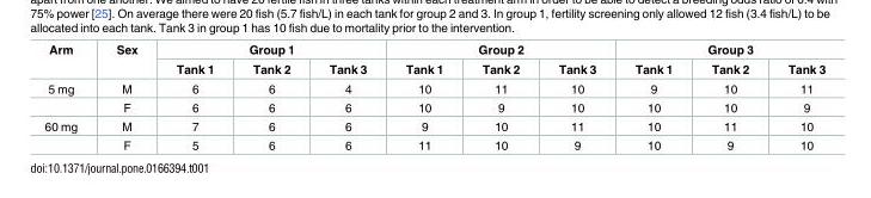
<table><thead><tr><td rowspan="2">Arm</td><td rowspan="2">Sex</td><td colspan="3">Group 1</td><td colspan="3">Group 2</td><td colspan="3">Group 3</td></tr><tr><td>Tank 1</td><td>Tank 2</td><td>Tank 3</td><td>Tank 1</td><td>Tank 2</td><td>Tank 3</td><td>Tank 1</td><td>Tank 2</td><td>Tank 3</td></tr></thead><tbody><tr><td rowspan="2">5 mg</td><td>M</td><td>6</td><td>6</td><td>4</td><td>10</td><td>11</td><td>10</td><td>9</td><td>10</td><td>11</td></tr><tr><td>F</td><td>6</td><td>6</td><td>6</td><td>10</td><td>9</td><td>10</td><td>10</td><td>10</td><td>9</td></tr><tr><td rowspan="2">60 mg</td><td>M</td><td>7</td><td>6</td><td>6</td><td>9</td><td>10</td><td>11</td><td>10</td><td>11</td><td>10</td></tr><tr><td>F</td><td>5</td><td>6</td><td>6</td><td>11</td><td>10</td><td>9</td><td>10</td><td>9</td><td>10</td></tr></tbody></table>